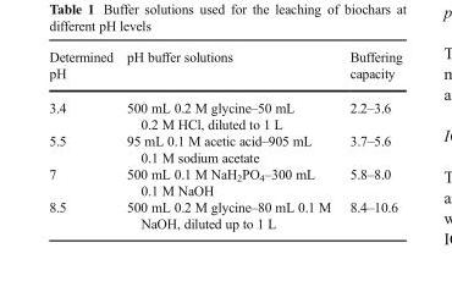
<table><thead><tr><td>Determined pH</td><td>pH buffer solutions</td><td>Buffering capacity</td></tr></thead><tbody><tr><td>3.4</td><td>500 mL 0.2 M glycine–50 mL 0.2 M HCl, diluted to 1 L</td><td>2.2–3.6</td></tr><tr><td>5.5</td><td>95 mL 0.1 M acetic acid–905 mL 0.1 M sodium acetate</td><td>3.7–5.6</td></tr><tr><td>7</td><td>500 mL 0.1 M NaH<sub>2</sub>PO<sub>4</sub>–300 mL 0.1 M NaOH</td><td>5.8–8.0</td></tr><tr><td>8.5</td><td>500 mL 0.2 M glycine–80 mL 0.1 M NaOH, diluted up to 1 L</td><td>8.4–10.6</td></tr></tbody></table>